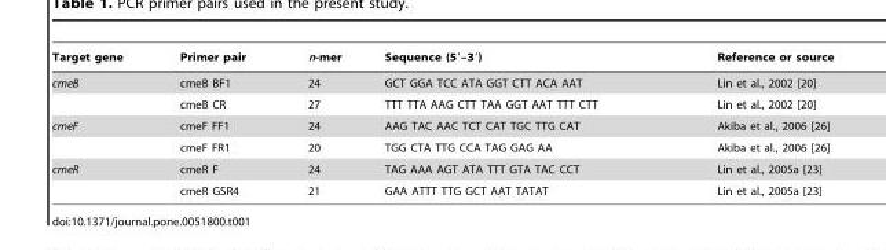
<table><thead><tr><td>Target gene</td><td>Primer pair</td><td>n-mer</td><td>Sequence (5′–3′)</td><td>Reference or source</td></tr></thead><tbody><tr><td rowspan="2">cmeB</td><td>cmeB BF1</td><td>24</td><td>GCT GGA TCC ATA GGT CTT ACA AAT</td><td>Lin et al., 2002 [20]</td></tr><tr><td>cmeB CR</td><td>27</td><td>TTT TTA AAG CTT TAA GGT AAT TTT CTT</td><td>Lin et al., 2002 [20]</td></tr><tr><td rowspan="2">cmeF</td><td>cmeF FF1</td><td>24</td><td>AAG TAC AAC TCT CAT TGC TTG CAT</td><td>Akiba et al., 2006 [26]</td></tr><tr><td>cmeF FR1</td><td>20</td><td>TGG CTA TTG CCA TAG GAG AA</td><td>Akiba et al., 2006 [26]</td></tr><tr><td rowspan="2">cmeR</td><td>cmeR F</td><td>24</td><td>TAG AAA AGT ATA TTT GTA TAC CCT</td><td>Lin et al., 2005a [23]</td></tr><tr><td>cmeR GSR4</td><td>21</td><td>GAA ATTT TTG GCT AAT TATAT</td><td>Lin et al., 2005a [23]</td></tr></tbody></table>